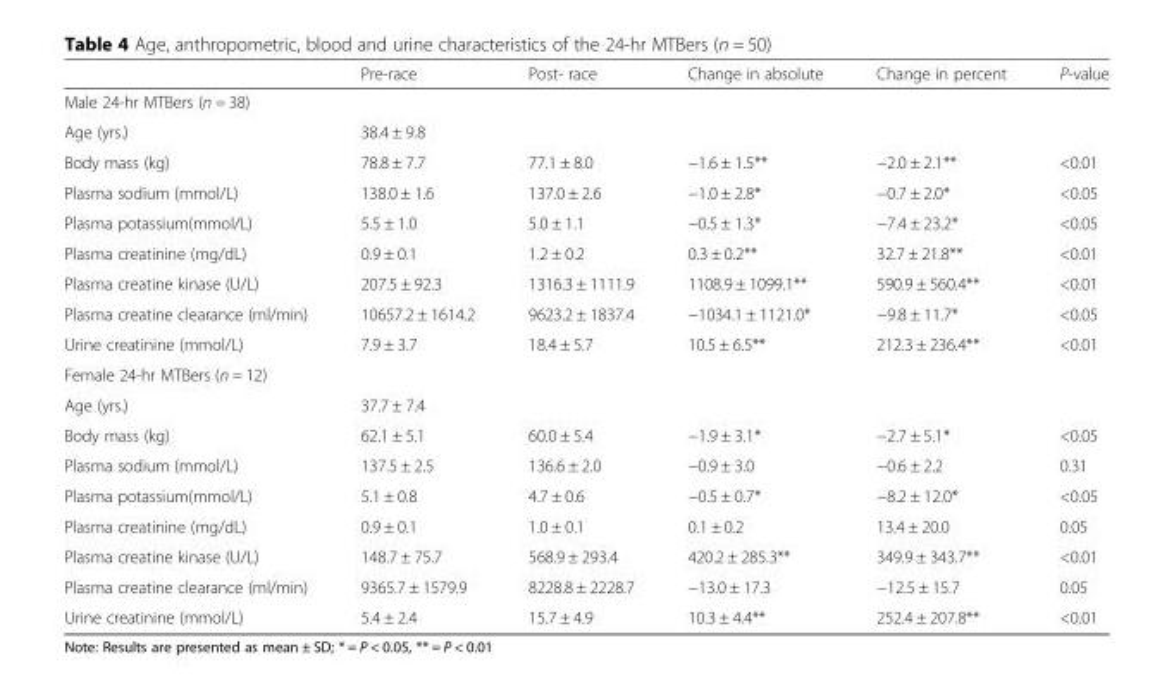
<table><thead><tr><td></td><td>Pre-race</td><td>Post- race</td><td>Change in absolute</td><td>Change in percent</td><td>P-value</td></tr></thead><tbody><tr><td colspan="6">Male 24-hr MTBers (n = 38)</td></tr><tr><td>Age (yrs.)</td><td>38.4 ± 9.8</td><td></td><td></td><td></td><td></td></tr><tr><td>Body mass (kg)</td><td>78.8 ± 7.7</td><td>77.1 ± 8.0</td><td>−1.6 ± 1.5**</td><td>−2.0 ± 2.1**</td><td>&lt;0.01</td></tr><tr><td>Plasma sodium (mmol/L)</td><td>138.0 ± 1.6</td><td>137.0 ± 2.6</td><td>−1.0 ± 2.8*</td><td>−0.7 ± 2.0*</td><td>&lt;0.05</td></tr><tr><td>Plasma potassium(mmol/L)</td><td>5.5 ± 1.0</td><td>5.0 ± 1.1</td><td>−0.5 ± 1.3*</td><td>−7.4 ± 23.2*</td><td>&lt;0.05</td></tr><tr><td>Plasma creatinine (mg/dL)</td><td>0.9 ± 0.1</td><td>1.2 ± 0.2</td><td>0.3 ± 0.2**</td><td>32.7 ± 21.8**</td><td>&lt;0.01</td></tr><tr><td>Plasma creatine kinase (U/L)</td><td>207.5 ± 92.3</td><td>1316.3 ± 1111.9</td><td>1108.9 ± 1099.1**</td><td>590.9 ± 560.4**</td><td>&lt;0.01</td></tr><tr><td>Plasma creatine clearance (ml/min)</td><td>10657.2 ± 1614.2</td><td>9623.2 ± 1837.4</td><td>−1034.1 ± 1121.0*</td><td>−9.8 ± 11.7*</td><td>&lt;0.05</td></tr><tr><td>Urine creatinine (mmol/L)</td><td>7.9 ± 3.7</td><td>18.4 ± 5.7</td><td>10.5 ± 6.5**</td><td>212.3 ± 236.4**</td><td>&lt;0.01</td></tr><tr><td colspan="6">Female 24-hr MTBers (n = 12)</td></tr><tr><td>Age (yrs.)</td><td>37.7 ± 7.4</td><td></td><td></td><td></td><td></td></tr><tr><td>Body mass (kg)</td><td>62.1 ± 5.1</td><td>60.0 ± 5.4</td><td>−1.9 ± 3.1*</td><td>−2.7 ± 5.1*</td><td>&lt;0.05</td></tr><tr><td>Plasma sodium (mmol/L)</td><td>137.5 ± 2.5</td><td>136.6 ± 2.0</td><td>−0.9 ± 3.0</td><td>−0.6 ± 2.2</td><td>0.31</td></tr><tr><td>Plasma potassium(mmol/L)</td><td>5.1 ± 0.8</td><td>4.7 ± 0.6</td><td>−0.5 ± 0.7*</td><td>−8.2 ± 12.0*</td><td>&lt;0.05</td></tr><tr><td>Plasma creatinine (mg/dL)</td><td>0.9 ± 0.1</td><td>1.0 ± 0.1</td><td>0.1 ± 0.2</td><td>13.4 ± 20.0</td><td>0.05</td></tr><tr><td>Plasma creatine kinase (U/L)</td><td>148.7 ± 75.7</td><td>568.9 ± 293.4</td><td>420.2 ± 285.3**</td><td>349.9 ± 343.7**</td><td>&lt;0.01</td></tr><tr><td>Plasma creatine clearance (ml/min)</td><td>9365.7 ± 1579.9</td><td>8228.8 ± 2228.7</td><td>−13.0 ± 17.3</td><td>−12.5 ± 15.7</td><td>0.05</td></tr><tr><td>Urine creatinine (mmol/L)</td><td>5.4 ± 2.4</td><td>15.7 ± 4.9</td><td>10.3 ± 4.4**</td><td>252.4 ± 207.8**</td><td>&lt;0.01</td></tr></tbody></table>